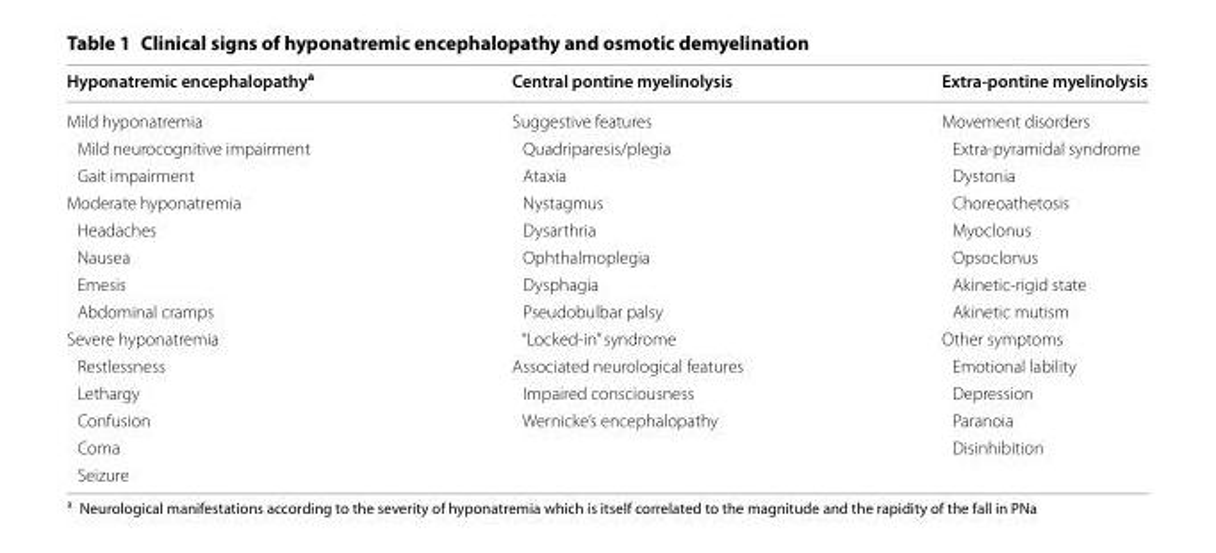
<table><thead><tr><td>Hyponatremic encephalopathy<sup>a</sup></td><td>Central pontine myelinolysis</td><td>Extra-pontine myelinolysis</td></tr></thead><tbody><tr><td>Mild hyponatremia</td><td>Suggestive features</td><td>Movement disorders</td></tr><tr><td>Mild neurocognitive impairment</td><td>Quadriparesis/plegia</td><td>Extra‑pyramidal syndrome</td></tr><tr><td>Gait impairment</td><td>Ataxia</td><td>Dystonia</td></tr><tr><td>Moderate hyponatremia</td><td>Nystagmus</td><td>Choreoathetosis</td></tr><tr><td>Headaches</td><td>Dysarthria</td><td>Myoclonus</td></tr><tr><td>Nausea</td><td>Ophthalmoplegia</td><td>Opsoclonus</td></tr><tr><td>Emesis</td><td>Dysphagia</td><td>Akinetic‑rigid state</td></tr><tr><td>Abdominal cramps</td><td>Pseudobulbar palsy</td><td>Akinetic mutism</td></tr><tr><td>Severe hyponatremia</td><td>“Locked‑in” syndrome</td><td>Other symptoms</td></tr><tr><td>Restlessness</td><td>Associated neurological features</td><td>Emotional lability</td></tr><tr><td>Lethargy</td><td>Impaired consciousness</td><td>Depression</td></tr><tr><td>Confusion</td><td>Wernicke’s encephalopathy</td><td>Paranoia</td></tr><tr><td>Coma</td><td></td><td>Disinhibition</td></tr><tr><td>Seizure</td><td></td><td></td></tr></tbody></table>